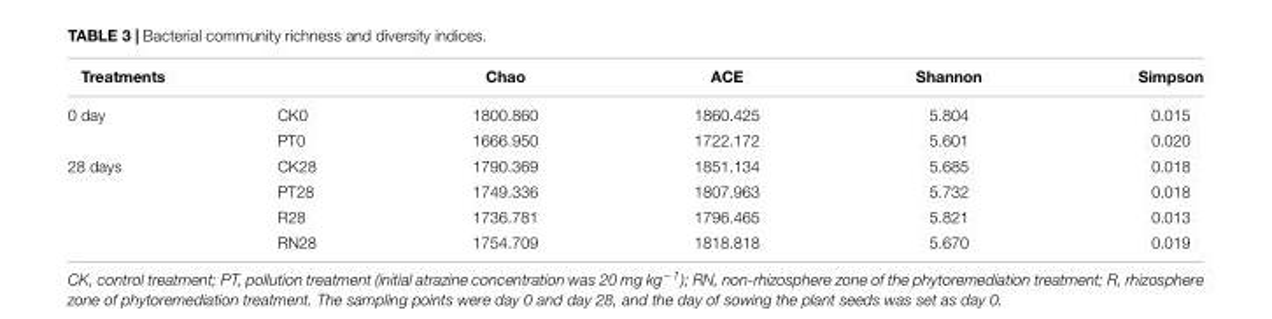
<table><thead><tr><td colspan="2">Treatments</td><td rowspan="2">Chao 1800.860</td><td rowspan="2">ACE 1860.425</td><td rowspan="2">Shannon 5.804</td><td rowspan="2">Simpson 0.015</td></tr><tr><td>0 day</td><td>CK0</td></tr></thead><tbody><tr><td></td><td>PT0</td><td>1666.950</td><td>1722.172</td><td>5.601</td><td>0.020</td></tr><tr><td rowspan="4">28 days</td><td>CK28</td><td>1790.369</td><td>1851.134</td><td>5.685</td><td>0.018</td></tr><tr><td>PT28</td><td>1749.336</td><td>1807.963</td><td>5.732</td><td>0.018</td></tr><tr><td>R28</td><td>1736.781</td><td>1796.465</td><td>5.821</td><td>0.013</td></tr><tr><td>RN28</td><td>1754.709</td><td>1818.818</td><td>5.670</td><td>0.019</td></tr></tbody></table>